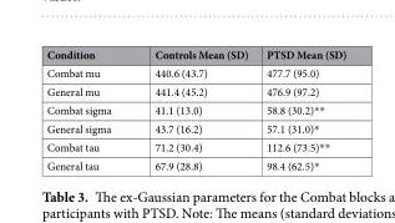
<table><thead><tr><td>Condition</td><td>Controls Mean (SD)</td><td>PTSD Mean (SD)</td></tr></thead><tbody><tr><td>Combat mu</td><td>440.6 (43.7)</td><td>477.7 (95.0)</td></tr><tr><td>General mu</td><td>441.4 (45.2)</td><td>476.9 (97.2)</td></tr><tr><td>Combat sigma</td><td>41.1 (13.0)</td><td>58.8 (30.2)**</td></tr><tr><td>General sigma</td><td>43.7 (16.2)</td><td>57.1 (31.0)*</td></tr><tr><td>Combat tau</td><td>71.2 (30.4)</td><td>112.6 (73.5)**</td></tr><tr><td>General tau</td><td>67.9 (28.8)</td><td>98.4 (62.5)*</td></tr></tbody></table>